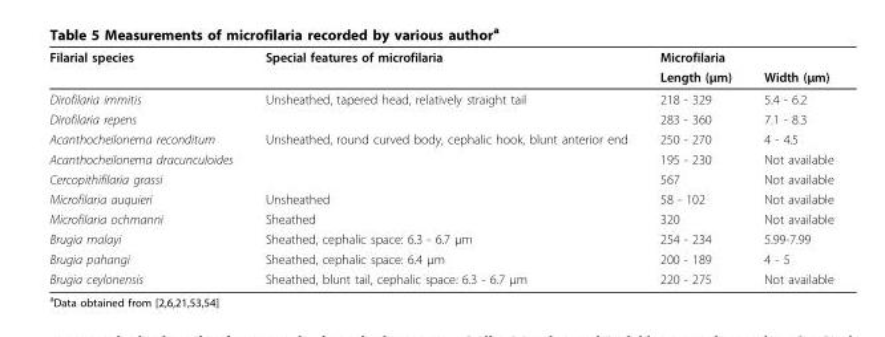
<table><thead><tr><td rowspan="2">Filarial species</td><td rowspan="2">Special features of microfilaria</td><td colspan="2">Microfilaria</td></tr><tr><td>Length (μm)</td><td>Width (μm)</td></tr></thead><tbody><tr><td>Dirofilaria immitis</td><td>Unsheathed, tapered head, relatively straight tail</td><td>218 - 329</td><td>5.4 - 6.2</td></tr><tr><td>Dirofilaria repens</td><td></td><td>283 - 360</td><td>7.1 - 8.3</td></tr><tr><td>Acanthocheilonema reconditum</td><td>Unsheathed, round curved body, cephalic hook, blunt anterior end</td><td>250 - 270</td><td>4 - 4.5</td></tr><tr><td>Acanthocheilonema dracunculoides</td><td></td><td>195 - 230</td><td>Not available</td></tr><tr><td>Cercopithifilaria grassi</td><td></td><td>567</td><td>Not available</td></tr><tr><td>Microfilaria auquieri</td><td>Unsheathed</td><td>58 - 102</td><td>Not available</td></tr><tr><td>Microfilaria ochmanni</td><td>Sheathed</td><td>320</td><td>Not available</td></tr><tr><td>Brugia malayi</td><td>Sheathed, cephalic space: 6.3 - 6.7 μm</td><td>254 - 234</td><td>5.99-7.99</td></tr><tr><td>Brugia pahangi</td><td>Sheathed, cephalic space: 6.4 μm</td><td>200 - 189</td><td>4 - 5</td></tr><tr><td>Brugia ceylonensis</td><td>Sheathed, blunt tail, cephalic space: 6.3 - 6.7 μm</td><td>220 - 275</td><td>Not available</td></tr></tbody></table>